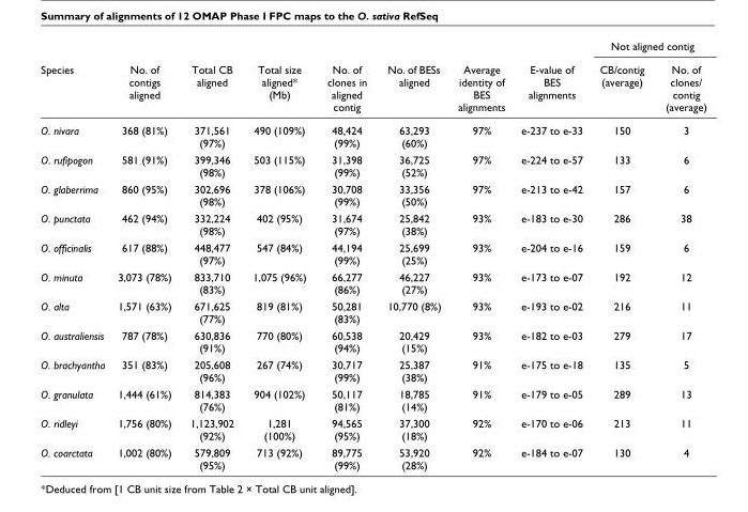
<table><thead><tr><td rowspan="2">Species</td><td rowspan="2">No. of contigs aligned</td><td rowspan="2">Total CB aligned</td><td rowspan="2">Total size aligned* (Mb)</td><td rowspan="2">No. of clones in aligned contig</td><td rowspan="2">No. of BESs aligned</td><td rowspan="2">Average identity of BES alignments</td><td rowspan="2">E-value of BES alignments</td><td colspan="2">Not aligned contig</td></tr><tr><td>CB/contig (average)</td><td>No. of clones/ contig (average)</td></tr></thead><tbody><tr><td>O. nivara</td><td>368 (81%)</td><td>371,561 (97%)</td><td>490 (109%)</td><td>48,424 (99%)</td><td>63,293 (60%)</td><td>97%</td><td>e-237 to e-33</td><td>150</td><td>3</td></tr><tr><td>O. rufipogon</td><td>581 (91%)</td><td>399,346 (98%)</td><td>503 (115%)</td><td>31,398 (99%)</td><td>36,725 (52%)</td><td>97%</td><td>e-224 to e-57</td><td>133</td><td>6</td></tr><tr><td>O. glaberrima</td><td>860 (95%)</td><td>302,696 (98%)</td><td>378 (106%)</td><td>30,708 (99%)</td><td>33,356 (50%)</td><td>97%</td><td>e-213 to e-42</td><td>157</td><td>6</td></tr><tr><td>O. punctata</td><td>462 (94%)</td><td>332,224 (98%)</td><td>402 (95%)</td><td>31,674 (97%)</td><td>25,842 (38%)</td><td>93%</td><td>e-183 to e-30</td><td>286</td><td>38</td></tr><tr><td>O. officinalis</td><td>617 (88%)</td><td>448,477 (97%)</td><td>547 (84%)</td><td>44,194 (99%)</td><td>25,699 (25%)</td><td>93%</td><td>e-204 to e-16</td><td>159</td><td>6</td></tr><tr><td>O. minuta</td><td>3,073 (78%)</td><td>833,710 (83%)</td><td>1,075 (96%)</td><td>66,277 (86%)</td><td>46,227 (27%)</td><td>93%</td><td>e-173 to e-07</td><td>192</td><td>12</td></tr><tr><td>O. alta</td><td>1,571 (63%)</td><td>671,625 (77%)</td><td>819 (81%)</td><td>50,281 (83%)</td><td>10,770 (8%)</td><td>93%</td><td>e-193 to e-02</td><td>216</td><td>11</td></tr><tr><td>O. australiensis</td><td>787 (78%)</td><td>630,836 (91%)</td><td>770 (80%)</td><td>60,538 (94%)</td><td>20,429 (15%)</td><td>93%</td><td>e-182 to e-03</td><td>279</td><td>17</td></tr><tr><td>O. brachyantha</td><td>351 (83%)</td><td>205,608 (96%)</td><td>267 (74%)</td><td>30,717 (99%)</td><td>25,387 (38%)</td><td>91%</td><td>e-175 to e-18</td><td>135</td><td>5</td></tr><tr><td>O. granulata</td><td>1,444 (61%)</td><td>814,383 (76%)</td><td>904 (102%)</td><td>50,117 (81%)</td><td>18,785 (14%)</td><td>91%</td><td>e-179 to e-05</td><td>289</td><td>13</td></tr><tr><td>O. ridleyi</td><td>1,756 (80%)</td><td>1,123,902 (92%)</td><td>1,281 (100%)</td><td>94,565 (95%)</td><td>37,300 (18%)</td><td>92%</td><td>e-170 to e-06</td><td>213</td><td>11</td></tr><tr><td>O. coarctata</td><td>1,002 (80%)</td><td>579,809 (95%)</td><td>713 (92%)</td><td>89,775 (99%)</td><td>53,920 (28%)</td><td>92%</td><td>e-184 to e-07</td><td>130</td><td>4</td></tr></tbody></table>